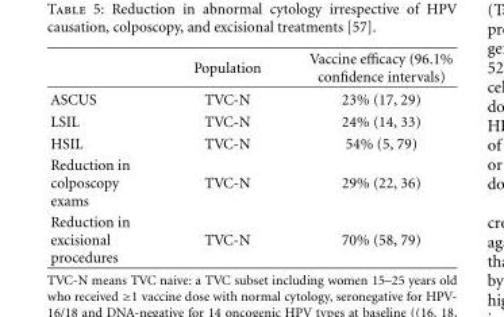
<table><thead><tr><td></td><td>Population</td><td>Vaccine efficacy (96.1% confidence intervals)</td></tr></thead><tbody><tr><td>ASCUS</td><td>TVC-N</td><td>23% (17, 29)</td></tr><tr><td>LSIL</td><td>TVC-N</td><td>24% (14, 33)</td></tr><tr><td>HSIL</td><td>TVC-N</td><td>54% (5, 79)</td></tr><tr><td>Reduction in colposcopy exams</td><td>TVC-N</td><td>29% (22, 36)</td></tr><tr><td>Reduction in excisional procedures</td><td>TVC-N</td><td>70% (58, 79)</td></tr></tbody></table>